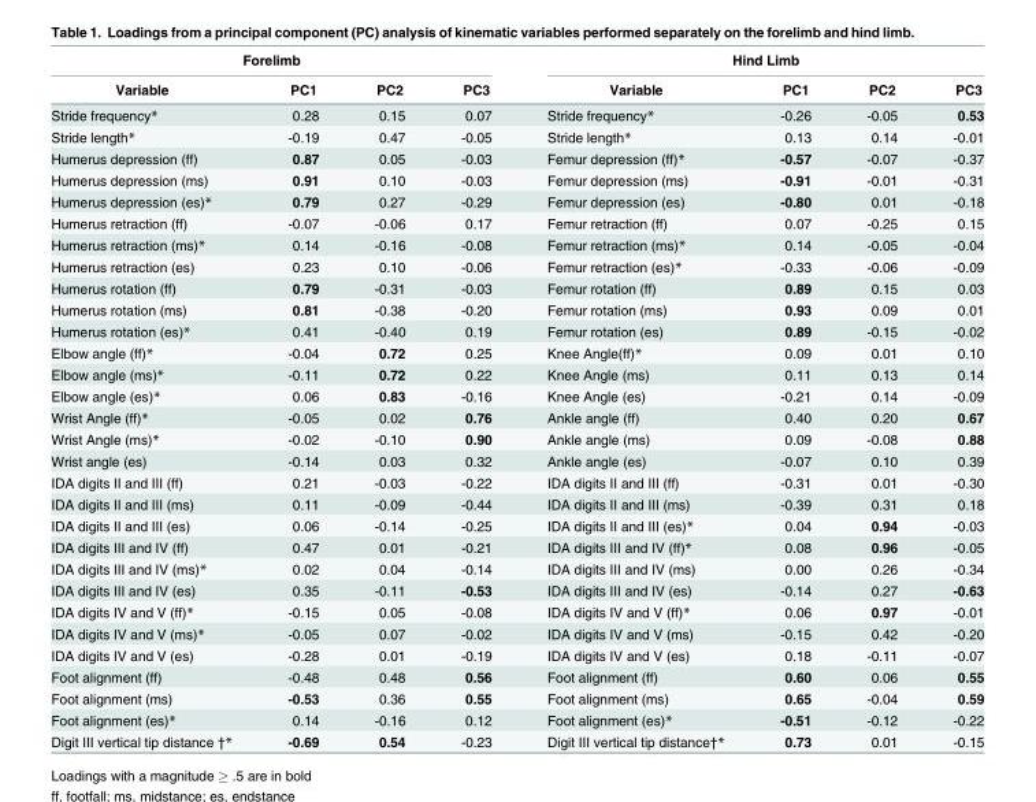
<table><thead><tr><td colspan="4">Forelimb</td><td colspan="4">Hind Limb</td></tr><tr><td>Variable</td><td>PC1</td><td>PC2</td><td>PC3</td><td>Variable</td><td>PC1</td><td>PC2</td><td>PC3</td></tr></thead><tbody><tr><td>Stride frequency*</td><td>0.28</td><td>0.15</td><td>0.07</td><td>Stride frequency*</td><td>-0.26</td><td>-0.05</td><td>0.53</td></tr><tr><td>Stride length*</td><td>-0.19</td><td>0.47</td><td>-0.05</td><td>Stride length*</td><td>0.13</td><td>0.14</td><td>-0.01</td></tr><tr><td>Humerus depression (ff)</td><td>0.87</td><td>0.05</td><td>-0.03</td><td>Femur depression (ff)*</td><td>-0.57</td><td>-0.07</td><td>-0.37</td></tr><tr><td>Humerus depression (ms)</td><td>0.91</td><td>0.10</td><td>-0.03</td><td>Femur depression (ms)</td><td>-0.91</td><td>-0.01</td><td>-0.31</td></tr><tr><td>Humerus depression (es)*</td><td>0.79</td><td>0.27</td><td>-0.29</td><td>Femur depression (es)</td><td>-0.80</td><td>0.01</td><td>-0.18</td></tr><tr><td>Humerus retraction (ff)</td><td>-0.07</td><td>-0.06</td><td>0.17</td><td>Femur retraction (ff)</td><td>0.07</td><td>-0.25</td><td>0.15</td></tr><tr><td>Humerus retraction (ms)*</td><td>0.14</td><td>-0.16</td><td>-0.08</td><td>Femur retraction (ms)*</td><td>0.14</td><td>-0.05</td><td>-0.04</td></tr><tr><td>Humerus retraction (es)</td><td>0.23</td><td>0.10</td><td>-0.06</td><td>Femur retraction (es)*</td><td>-0.33</td><td>-0.06</td><td>-0.09</td></tr><tr><td>Humerus rotation (ff)</td><td>0.79</td><td>-0.31</td><td>-0.03</td><td>Femur rotation (ff)</td><td>0.89</td><td>0.15</td><td>0.03</td></tr><tr><td>Humerus rotation (ms)</td><td>0.81</td><td>-0.38</td><td>-0.20</td><td>Femur rotation (ms)</td><td>0.93</td><td>0.09</td><td>0.01</td></tr><tr><td>Humerus rotation (es)*</td><td>0.41</td><td>-0.40</td><td>0.19</td><td>Femur rotation (es)</td><td>0.89</td><td>-0.15</td><td>-0.02</td></tr><tr><td>Elbow angle (ff)*</td><td>-0.04</td><td>0.72</td><td>0.25</td><td>Knee Angle(ff)*</td><td>0.09</td><td>0.01</td><td>0.10</td></tr><tr><td>Elbow angle (ms)*</td><td>-0.11</td><td>0.72</td><td>0.22</td><td>Knee Angle (ms)</td><td>0.11</td><td>0.13</td><td>0.14</td></tr><tr><td>Elbow angle (es)*</td><td>0.06</td><td>0.83</td><td>-0.16</td><td>Knee Angle (es)</td><td>-0.21</td><td>0.14</td><td>-0.09</td></tr><tr><td>Wrist Angle (ff)*</td><td>-0.05</td><td>0.02</td><td>0.76</td><td>Ankle angle (ff)</td><td>0.40</td><td>0.20</td><td>0.67</td></tr><tr><td>Wrist Angle (ms)*</td><td>-0.02</td><td>-0.10</td><td>0.90</td><td>Ankle angle (ms)</td><td>0.09</td><td>-0.08</td><td>0.88</td></tr><tr><td>Wrist angle (es)</td><td>-0.14</td><td>0.03</td><td>0.32</td><td>Ankle angle (es)</td><td>-0.07</td><td>0.10</td><td>0.39</td></tr><tr><td>IDA digits II and III (ff)</td><td>0.21</td><td>-0.03</td><td>-0.22</td><td>IDA digits II and III (ff)</td><td>-0.31</td><td>0.01</td><td>-0.30</td></tr><tr><td>IDA digits II and III (ms)</td><td>0.11</td><td>-0.09</td><td>-0.44</td><td>IDA digits II and III (ms)</td><td>-0.39</td><td>0.31</td><td>0.18</td></tr><tr><td>IDA digits II and III (es)</td><td>0.06</td><td>-0.14</td><td>-0.25</td><td>IDA digits II and III (es)*</td><td>0.04</td><td>0.94</td><td>-0.03</td></tr><tr><td>IDA digits III and IV (ff)</td><td>0.47</td><td>0.01</td><td>-0.21</td><td>IDA digits III and IV (ff)*</td><td>0.08</td><td>0.96</td><td>-0.05</td></tr><tr><td>IDA digits III and IV (ms)*</td><td>0.02</td><td>0.04</td><td>-0.14</td><td>IDA digits III and IV (ms)</td><td>0.00</td><td>0.26</td><td>-0.34</td></tr><tr><td>IDA digits III and IV (es)</td><td>0.35</td><td>-0.11</td><td>-0.53</td><td>IDA digits III and IV (es)</td><td>-0.14</td><td>0.27</td><td>-0.63</td></tr><tr><td>IDA digits IV and V (ff)*</td><td>-0.15</td><td>0.05</td><td>-0.08</td><td>IDA digits IV and V (ff)*</td><td>0.06</td><td>0.97</td><td>-0.01</td></tr><tr><td>IDA digits IV and V (ms)*</td><td>-0.05</td><td>0.07</td><td>-0.02</td><td>IDA digits IV and V (ms)</td><td>-0.15</td><td>0.42</td><td>-0.20</td></tr><tr><td>IDA digits IV and V (es)</td><td>-0.28</td><td>0.01</td><td>-0.19</td><td>IDA digits IV and V (es)</td><td>0.18</td><td>-0.11</td><td>-0.07</td></tr><tr><td>Foot alignment (ff)</td><td>-0.48</td><td>0.48</td><td>0.56</td><td>Foot alignment (ff)</td><td>0.60</td><td>0.06</td><td>0.55</td></tr><tr><td>Foot alignment (ms)</td><td>-0.53</td><td>0.36</td><td>0.55</td><td>Foot alignment (ms)</td><td>0.65</td><td>-0.04</td><td>0.59</td></tr><tr><td>Foot alignment (es)*</td><td>0.14</td><td>-0.16</td><td>0.12</td><td>Foot alignment (es)*</td><td>-0.51</td><td>-0.12</td><td>-0.22</td></tr><tr><td>Digit III vertical tip distance †*</td><td>-0.69</td><td>0.54</td><td>-0.23</td><td>Digit III vertical tip distance†*</td><td>0.73</td><td>0.01</td><td>-0.15</td></tr></tbody></table>